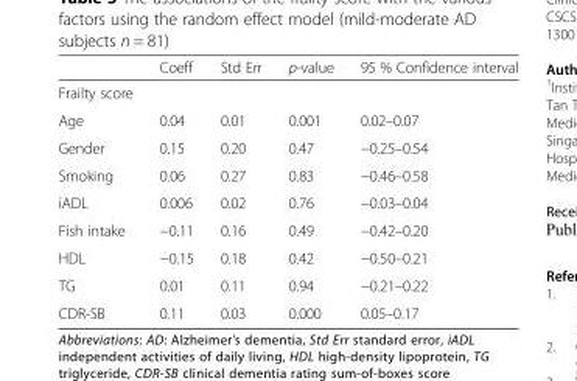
<table><thead><tr><td></td><td>Coeff</td><td>Std Err</td><td>p-value</td><td>95 % Confidence interval</td></tr></thead><tbody><tr><td colspan="5">Frailty score</td></tr><tr><td>Age</td><td>0.04</td><td>0.01</td><td>0.001</td><td>0.02–0.07</td></tr><tr><td>Gender</td><td>0.15</td><td>0.20</td><td>0.47</td><td>−0.25–0.54</td></tr><tr><td>Smoking</td><td>0.06</td><td>0.27</td><td>0.83</td><td>−0.46–0.58</td></tr><tr><td>iADL</td><td>0.006</td><td>0.02</td><td>0.76</td><td>−0.03–0.04</td></tr><tr><td>Fish intake</td><td>−0.11</td><td>0.16</td><td>0.49</td><td>−0.42–0.20</td></tr><tr><td>HDL</td><td>−0.15</td><td>0.18</td><td>0.42</td><td>−0.50–0.21</td></tr><tr><td>TG</td><td>0.01</td><td>0.11</td><td>0.94</td><td>−0.21–0.22</td></tr><tr><td>CDR-SB</td><td>0.11</td><td>0.03</td><td>0.000</td><td>0.05–0.17</td></tr></tbody></table>